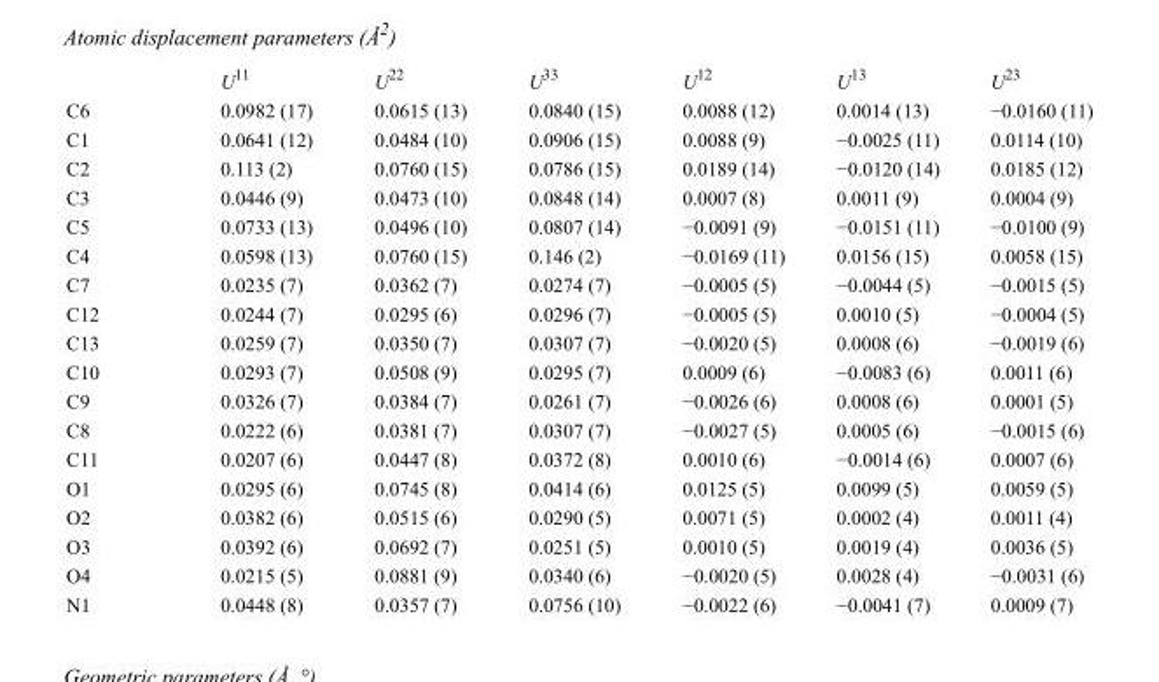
<table><thead><tr><td></td><td>U<sup>11</sup></td><td>U<sup>22</sup></td><td>U<sup>33</sup></td><td>U<sup>12</sup></td><td>U<sup>13</sup></td><td>U<sup>23</sup></td></tr></thead><tbody><tr><td>C6</td><td>0.0982 (17)</td><td>0.0615 (13)</td><td>0.0840 (15)</td><td>0.0088 (12)</td><td>0.0014 (13)</td><td>−0.0160 (11)</td></tr><tr><td>C1</td><td>0.0641 (12)</td><td>0.0484 (10)</td><td>0.0906 (15)</td><td>0.0088 (9)</td><td>−0.0025 (11)</td><td>0.0114 (10)</td></tr><tr><td>C2</td><td>0.113 (2)</td><td>0.0760 (15)</td><td>0.0786 (15)</td><td>0.0189 (14)</td><td>−0.0120 (14)</td><td>0.0185 (12)</td></tr><tr><td>C3</td><td>0.0446 (9)</td><td>0.0473 (10)</td><td>0.0848 (14)</td><td>0.0007 (8)</td><td>0.0011 (9)</td><td>0.0004 (9)</td></tr><tr><td>C5</td><td>0.0733 (13)</td><td>0.0496 (10)</td><td>0.0807 (14)</td><td>−0.0091 (9)</td><td>−0.0151 (11)</td><td>−0.0100 (9)</td></tr><tr><td>C4</td><td>0.0598 (13)</td><td>0.0760 (15)</td><td>0.146 (2)</td><td>−0.0169 (11)</td><td>0.0156 (15)</td><td>0.0058 (15)</td></tr><tr><td>C7</td><td>0.0235 (7)</td><td>0.0362 (7)</td><td>0.0274 (7)</td><td>−0.0005 (5)</td><td>−0.0044 (5)</td><td>−0.0015 (5)</td></tr><tr><td>C12</td><td>0.0244 (7)</td><td>0.0295 (6)</td><td>0.0296 (7)</td><td>−0.0005 (5)</td><td>0.0010 (5)</td><td>−0.0004 (5)</td></tr><tr><td>C13</td><td>0.0259 (7)</td><td>0.0350 (7)</td><td>0.0307 (7)</td><td>−0.0020 (5)</td><td>0.0008 (6)</td><td>−0.0019 (6)</td></tr><tr><td>C10</td><td>0.0293 (7)</td><td>0.0508 (9)</td><td>0.0295 (7)</td><td>0.0009 (6)</td><td>−0.0083 (6)</td><td>0.0011 (6)</td></tr><tr><td>C9</td><td>0.0326 (7)</td><td>0.0384 (7)</td><td>0.0261 (7)</td><td>−0.0026 (6)</td><td>0.0008 (6)</td><td>0.0001 (5)</td></tr><tr><td>C8</td><td>0.0222 (6)</td><td>0.0381 (7)</td><td>0.0307 (7)</td><td>−0.0027 (5)</td><td>0.0005 (6)</td><td>−0.0015 (6)</td></tr><tr><td>C11</td><td>0.0207 (6)</td><td>0.0447 (8)</td><td>0.0372 (8)</td><td>0.0010 (6)</td><td>−0.0014 (6)</td><td>0.0007 (6)</td></tr><tr><td>O1</td><td>0.0295 (6)</td><td>0.0745 (8)</td><td>0.0414 (6)</td><td>0.0125 (5)</td><td>0.0099 (5)</td><td>0.0059 (5)</td></tr><tr><td>O2</td><td>0.0382 (6)</td><td>0.0515 (6)</td><td>0.0290 (5)</td><td>0.0071 (5)</td><td>0.0002 (4)</td><td>0.0011 (4)</td></tr><tr><td>O3</td><td>0.0392 (6)</td><td>0.0692 (7)</td><td>0.0251 (5)</td><td>0.0010 (5)</td><td>0.0019 (4)</td><td>0.0036 (5)</td></tr><tr><td>O4</td><td>0.0215 (5)</td><td>0.0881 (9)</td><td>0.0340 (6)</td><td>−0.0020 (5)</td><td>0.0028 (4)</td><td>−0.0031 (6)</td></tr><tr><td>N1</td><td>0.0448 (8)</td><td>0.0357 (7)</td><td>0.0756 (10)</td><td>−0.0022 (6)</td><td>−0.0041 (7)</td><td>0.0009 (7)</td></tr></tbody></table>